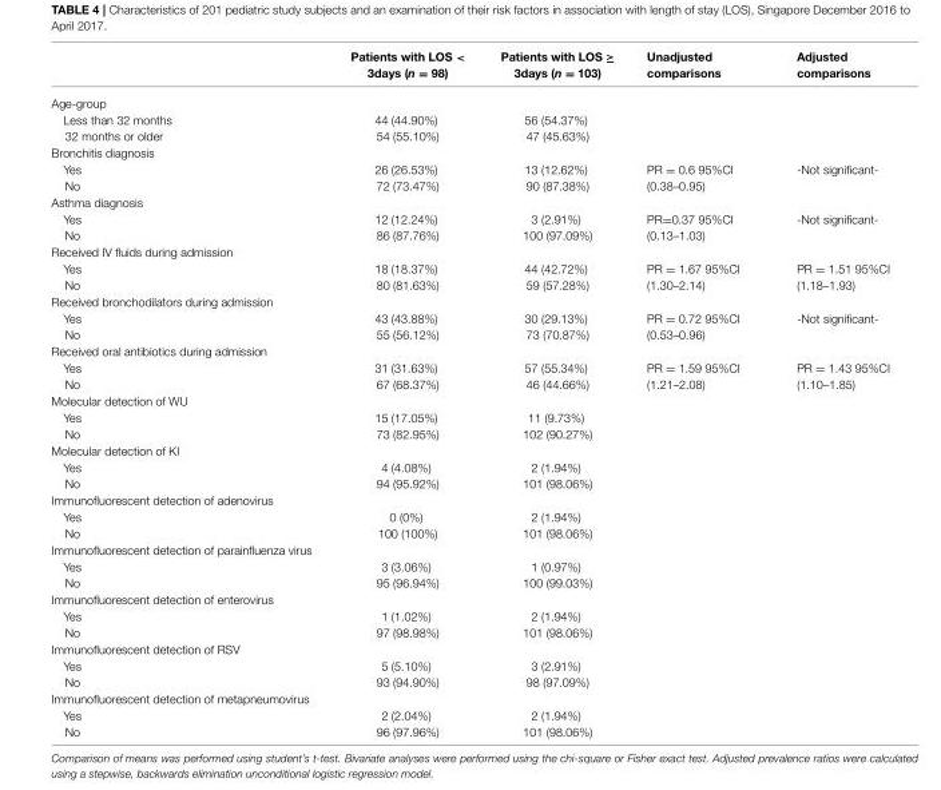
<table><thead><tr><td></td><td>Patients with LOS &lt; 3days (n = 98)</td><td>Patients with LOS ≥ 3days (n = 103)</td><td>Unadjusted comparisons</td><td>Adjusted comparisons</td></tr></thead><tbody><tr><td colspan="5">Age-group</td></tr><tr><td>Less than 32 months 32 months or older</td><td>44 (44.90%) 54 (55.10%)</td><td>56 (54.37%) 47 (45.63%)</td><td></td><td></td></tr><tr><td colspan="5">Bronchitis diagnosis</td></tr><tr><td>Yes No</td><td>26 (26.53%) 72 (73.47%)</td><td>13 (12.62%) 90 (87.38%)</td><td>PR = 0.6 95%CI (0.38–0.95)</td><td>-Not significant-</td></tr><tr><td colspan="5">Asthma diagnosis</td></tr><tr><td>Yes No</td><td>12 (12.24%) 86 (87.76%)</td><td>3 (2.91%) 100 (97.09%)</td><td>PR=0.37 95%CI (0.13–1.03)</td><td>-Not significant-</td></tr><tr><td colspan="5">Received IV fluids during admission</td></tr><tr><td>Yes No</td><td>18 (18.37%) 80 (81.63%)</td><td>44 (42.72%) 59 (57.28%)</td><td>PR = 1.67 95%CI (1.30–2.14)</td><td>PR = 1.51 95%CI (1.18–1.93)</td></tr><tr><td colspan="5">Received bronchodilators during admission</td></tr><tr><td>Yes No</td><td>43 (43.88%) 55 (56.12%)</td><td>30 (29.13%) 73 (70.87%)</td><td>PR = 0.72 95%CI (0.53–0.96)</td><td>-Not significant-</td></tr><tr><td colspan="5">Received oral antibiotics during admission</td></tr><tr><td>Yes No</td><td>31 (31.63%) 67 (68.37%)</td><td>57 (55.34%) 46 (44.66%)</td><td>PR = 1.59 95%CI (1.21–2.08)</td><td>PR = 1.43 95%CI (1.10–1.85)</td></tr><tr><td colspan="5">Molecular detection of WU</td></tr><tr><td>Yes No</td><td>15 (17.05%) 73 (82.95%)</td><td>11 (9.73%) 102 (90.27%)</td><td></td><td></td></tr><tr><td colspan="5">Molecular detection of KI</td></tr><tr><td>Yes No</td><td>4 (4.08%) 94 (95.92%)</td><td>2 (1.94%) 101 (98.06%)</td><td></td><td></td></tr><tr><td colspan="5">Immunofluorescent detection of adenovirus</td></tr><tr><td>Yes No</td><td>0 (0%) 100 (100%)</td><td>2 (1.94%) 101 (98.06%)</td><td></td><td></td></tr><tr><td colspan="5">Immunofluorescent detection of parainfluenza virus</td></tr><tr><td>Yes No</td><td>3 (3.06%) 95 (96.94%)</td><td>1 (0.97%) 100 (99.03%)</td><td></td><td></td></tr><tr><td colspan="5">Immunofluorescent detection of enterovirus</td></tr><tr><td>Yes No</td><td>1 (1.02%) 97 (98.98%)</td><td>2 (1.94%) 101 (98.06%)</td><td></td><td></td></tr><tr><td colspan="5">Immunofluorescent detection of RSV</td></tr><tr><td>Yes No</td><td>5 (5.10%) 93 (94.90%)</td><td>3 (2.91%) 98 (97.09%)</td><td></td><td></td></tr><tr><td colspan="5">Immunofluorescent detection of metapneumovirus</td></tr><tr><td>Yes No</td><td>2 (2.04%) 96 (97.96%)</td><td>2 (1.94%) 101 (98.06%)</td><td></td><td></td></tr></tbody></table>